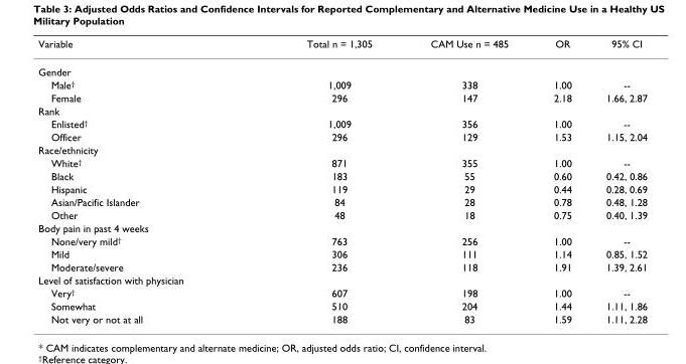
<table><thead><tr><td>Variable</td><td>Total n = 1,305</td><td>CAM Use n = 485</td><td>OR</td><td>95% CI</td></tr></thead><tbody><tr><td colspan="5">Gender</td></tr><tr><td>Male<sup>†</sup></td><td>1,009</td><td>338</td><td>1.00</td><td>--</td></tr><tr><td>Female</td><td>296</td><td>147</td><td>2.18</td><td>1.66, 2.87</td></tr><tr><td colspan="5">Rank</td></tr><tr><td>Enlisted<sup>†</sup></td><td>1,009</td><td>356</td><td>1.00</td><td>--</td></tr><tr><td>Officer</td><td>296</td><td>129</td><td>1.53</td><td>1.15, 2.04</td></tr><tr><td colspan="5">Race/ethnicity</td></tr><tr><td>White<sup>†</sup></td><td>871</td><td>355</td><td>1.00</td><td>--</td></tr><tr><td>Black</td><td>183</td><td>55</td><td>0.60</td><td>0.42, 0.86</td></tr><tr><td>Hispanic</td><td>119</td><td>29</td><td>0.44</td><td>0.28, 0.69</td></tr><tr><td>Asian/Pacific Islander</td><td>84</td><td>28</td><td>0.78</td><td>0.48, 1.28</td></tr><tr><td>Other</td><td>48</td><td>18</td><td>0.75</td><td>0.40, 1.39</td></tr><tr><td colspan="5">Body pain in past 4 weeks</td></tr><tr><td>None/very mild<sup>†</sup></td><td>763</td><td>256</td><td>1.00</td><td>--</td></tr><tr><td>Mild</td><td>306</td><td>111</td><td>1.14</td><td>0.85, 1.52</td></tr><tr><td>Moderate/severe</td><td>236</td><td>118</td><td>1.91</td><td>1.39, 2.61</td></tr><tr><td colspan="5">Level of satisfaction with physician</td></tr><tr><td>Very<sup>†</sup></td><td>607</td><td>198</td><td>1.00</td><td>--</td></tr><tr><td>Somewhat</td><td>510</td><td>204</td><td>1.44</td><td>1.11, 1.86</td></tr><tr><td>Not very or not at all</td><td>188</td><td>83</td><td>1.59</td><td>1.11, 2.28</td></tr></tbody></table>